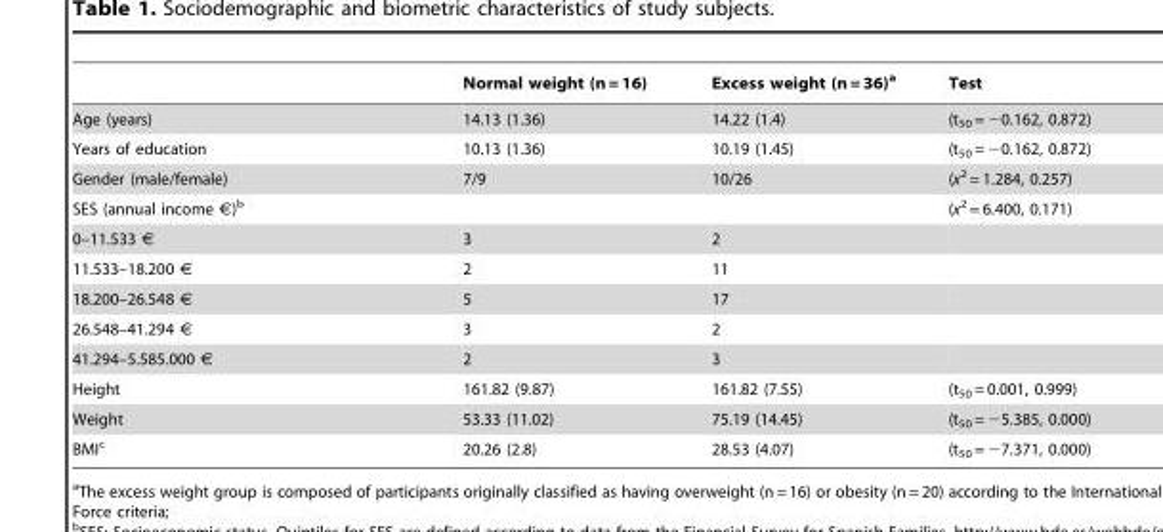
<table><thead><tr><td></td><td>Normal weight (n = 16)</td><td>Excess weight (n = 36)<sup>a</sup></td><td>Test</td></tr></thead><tbody><tr><td>Age (years)</td><td>14.13 (1.36)</td><td>14.22 (1.4)</td><td>(t<sub>50</sub> = −0.162, 0.872)</td></tr><tr><td>Years of education</td><td>10.13 (1.36)</td><td>10.19 (1.45)</td><td>(t<sub>50</sub> = −0.162, 0.872)</td></tr><tr><td>Gender (male/female)</td><td>7/9</td><td>10/26</td><td>(x<sup>2</sup> = 1.284, 0.257)</td></tr><tr><td>SES (annual income €)<sup>b</sup></td><td></td><td></td><td>(x<sup>2</sup> = 6.400, 0.171)</td></tr><tr><td>0–11.533 €</td><td>3</td><td>2</td><td></td></tr><tr><td>11.533–18.200 €</td><td>2</td><td>11</td><td></td></tr><tr><td>18.200–26.548 €</td><td>5</td><td>17</td><td></td></tr><tr><td>26.548–41.294 €</td><td>3</td><td>2</td><td></td></tr><tr><td>41.294–5.585.000 €</td><td>2</td><td>3</td><td></td></tr><tr><td>Height</td><td>161.82 (9.87)</td><td>161.82 (7.55)</td><td>(t<sub>50</sub> = 0.001, 0.999)</td></tr><tr><td>Weight</td><td>53.33 (11.02)</td><td>75.19 (14.45)</td><td>(t<sub>50</sub> = −5.385, 0.000)</td></tr><tr><td>BMI<sup>c</sup></td><td>20.26 (2.8)</td><td>28.53 (4.07)</td><td>(t<sub>50</sub> = −7.371, 0.000)</td></tr></tbody></table>